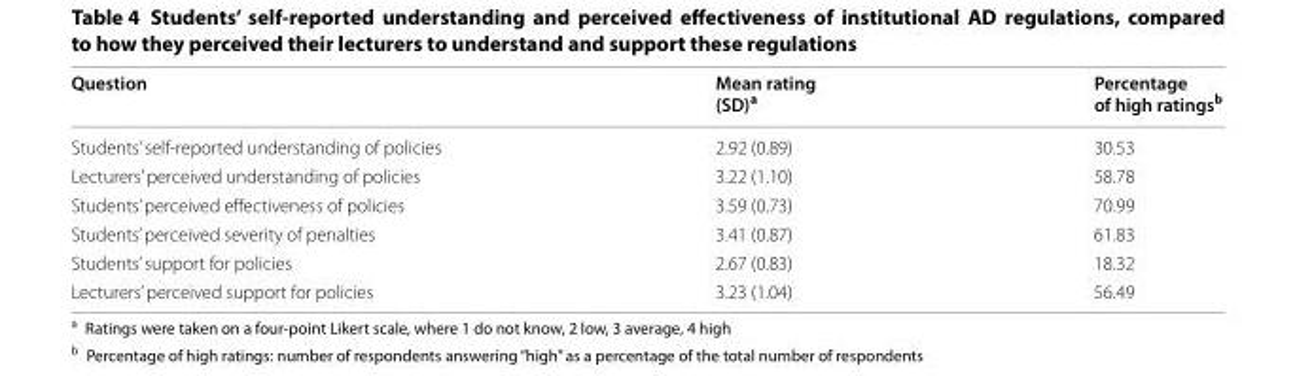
<table><thead><tr><td>Question</td><td>Mean rating (SD)<sup>a</sup></td><td>Percentage of high ratings<sup>b</sup></td></tr></thead><tbody><tr><td>Students’ self-reported understanding of policies</td><td>2.92 (0.89)</td><td>30.53</td></tr><tr><td>Lecturers’ perceived understanding of policies</td><td>3.22 (1.10)</td><td>58.78</td></tr><tr><td>Students’ perceived effectiveness of policies</td><td>3.59 (0.73)</td><td>70.99</td></tr><tr><td>Students’ perceived severity of penalties</td><td>3.41 (0.87)</td><td>61.83</td></tr><tr><td>Students’ support for policies</td><td>2.67 (0.83)</td><td>18.32</td></tr><tr><td>Lecturers’ perceived support for policies</td><td>3.23 (1.04)</td><td>56.49</td></tr></tbody></table>